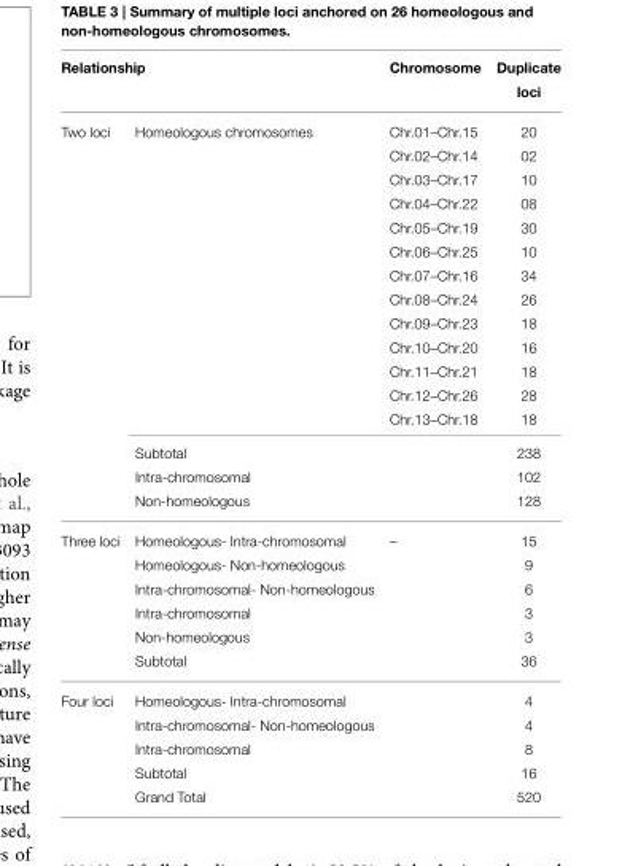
<table><thead><tr><td colspan="2">Relationship</td><td rowspan="2">Chromosome Chr.01–Chr.15</td><td rowspan="2">Duplicate loci 20</td></tr><tr><td>Two loci</td><td>Homeologous chromosomes</td></tr></thead><tbody><tr><td></td><td></td><td>Chr.02–Chr.14</td><td>02</td></tr><tr><td></td><td></td><td>Chr.03–Chr.17</td><td>10</td></tr><tr><td></td><td></td><td>Chr.04–Chr.22</td><td>08</td></tr><tr><td></td><td></td><td>Chr.05–Chr.19</td><td>30</td></tr><tr><td></td><td></td><td>Chr.06–Chr.25</td><td>10</td></tr><tr><td></td><td></td><td>Chr.07–Chr.16</td><td>34</td></tr><tr><td></td><td></td><td>Chr.08–Chr.24</td><td>26</td></tr><tr><td></td><td></td><td>Chr.09–Chr.23</td><td>18</td></tr><tr><td></td><td></td><td>Chr.10–Chr.20</td><td>16</td></tr><tr><td></td><td></td><td>Chr.11–Chr.21</td><td>18</td></tr><tr><td></td><td></td><td>Chr.12–Chr.26</td><td>28</td></tr><tr><td></td><td></td><td>Chr.13–Chr.18</td><td>18</td></tr><tr><td></td><td>Subtotal</td><td></td><td>238</td></tr><tr><td></td><td>Intra-chromosomal</td><td></td><td>102</td></tr><tr><td></td><td>Non-homeologous</td><td></td><td>128</td></tr><tr><td rowspan="6">Three loci</td><td>Homeologous- Intra-chromosomal</td><td>–</td><td>15</td></tr><tr><td>Homeologous- Non-homeologous</td><td></td><td>9</td></tr><tr><td>Intra-chromosomal- Non-homeologous</td><td></td><td>6</td></tr><tr><td>Intra-chromosomal</td><td></td><td>3</td></tr><tr><td>Non-homeologous</td><td></td><td>3</td></tr><tr><td>Subtotal</td><td></td><td>36</td></tr><tr><td rowspan="5">Four loci</td><td>Homeologous- Intra-chromosomal</td><td></td><td>4</td></tr><tr><td>Intra-chromosomal- Non-homeologous</td><td></td><td>4</td></tr><tr><td>Intra-chromosomal</td><td></td><td>8</td></tr><tr><td>Subtotal</td><td></td><td>16</td></tr><tr><td>Grand Total</td><td></td><td>520</td></tr></tbody></table>